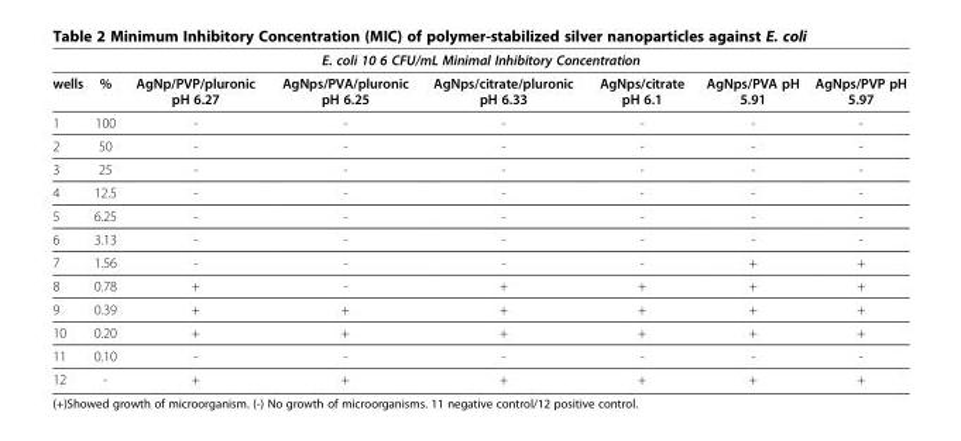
<table><thead><tr><td colspan="8">E. coli 10 6 CFU/mL Minimal Inhibitory Concentration</td></tr><tr><td>wells</td><td>%</td><td>AgNp/PVP/pluronic pH 6.27</td><td>AgNps/PVA/pluronic pH 6.25</td><td>AgNps/citrate/pluronic pH 6.33</td><td>AgNps/citrate pH 6.1</td><td>AgNps/PVA pH 5.91</td><td>AgNps/PVP pH 5.97</td></tr></thead><tbody><tr><td>1</td><td>100</td><td>-</td><td>-</td><td>-</td><td>-</td><td>-</td><td>-</td></tr><tr><td>2</td><td>50</td><td>-</td><td>-</td><td>-</td><td>-</td><td>-</td><td>-</td></tr><tr><td>3</td><td>25</td><td>-</td><td>-</td><td>-</td><td>-</td><td>-</td><td>-</td></tr><tr><td>4</td><td>12.5</td><td>-</td><td>-</td><td>-</td><td>-</td><td>-</td><td>-</td></tr><tr><td>5</td><td>6.25</td><td>-</td><td>-</td><td>-</td><td>-</td><td>-</td><td>-</td></tr><tr><td>6</td><td>3.13</td><td>-</td><td>-</td><td>-</td><td>-</td><td>-</td><td>-</td></tr><tr><td>7</td><td>1.56</td><td>-</td><td>-</td><td>-</td><td>-</td><td>+</td><td>+</td></tr><tr><td>8</td><td>0.78</td><td>+</td><td>-</td><td>+</td><td>+</td><td>+</td><td>+</td></tr><tr><td>9</td><td>0.39</td><td>+</td><td>+</td><td>+</td><td>+</td><td>+</td><td>+</td></tr><tr><td>10</td><td>0.20</td><td>+</td><td>+</td><td>+</td><td>+</td><td>+</td><td>+</td></tr><tr><td>11</td><td>0.10</td><td>-</td><td>-</td><td>-</td><td>-</td><td>-</td><td>-</td></tr><tr><td>12</td><td>-</td><td>+</td><td>+</td><td>+</td><td>+</td><td>+</td><td>+</td></tr></tbody></table>